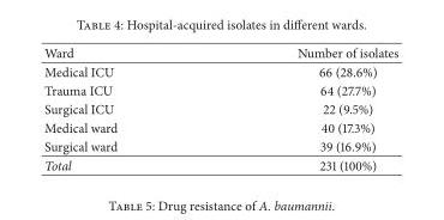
<table><thead><tr><td>Ward</td><td>Number of isolates</td></tr></thead><tbody><tr><td>Medical ICU</td><td>66 (28.6%)</td></tr><tr><td>Trauma ICU</td><td>64 (27.7%)</td></tr><tr><td>Surgical ICU</td><td>22 (9.5%)</td></tr><tr><td>Medical ward</td><td>40 (17.3%)</td></tr><tr><td>Surgical ward</td><td>39 (16.9%)</td></tr><tr><td>Total</td><td>231 (100%)</td></tr></tbody></table>